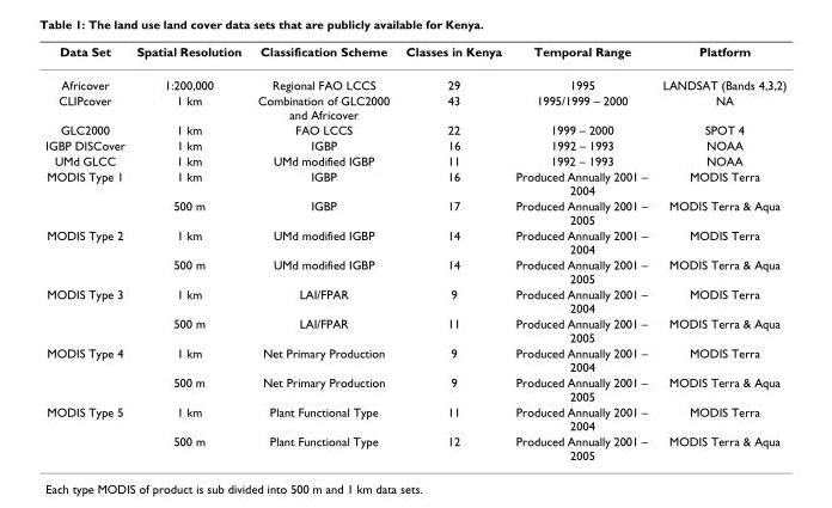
<table><thead><tr><td>Data Set</td><td>Spatial Resolution</td><td>Classification Scheme</td><td>Classes in Kenya</td><td>Temporal Range</td><td>Platform</td></tr></thead><tbody><tr><td>Africover</td><td>1:200,000</td><td>Regional FAO LCCS</td><td>29</td><td>1995</td><td>LANDSAT (Bands 4,3,2)</td></tr><tr><td>CLIPcover</td><td>1 km</td><td>Combination of GLC2000 and Africover</td><td>43</td><td>1995/1999 – 2000</td><td>NA</td></tr><tr><td>GLC2000</td><td>1 km</td><td>FAO LCCS</td><td>22</td><td>1999 – 2000</td><td>SPOT 4</td></tr><tr><td>IGBP DISCover</td><td>1 km</td><td>IGBP</td><td>16</td><td>1992 – 1993</td><td>NOAA</td></tr><tr><td>UMd GLCC</td><td>1 km</td><td>UMd modified IGBP</td><td>11</td><td>1992 – 1993</td><td>NOAA</td></tr><tr><td rowspan="2">MODIS Type 1</td><td>1 km</td><td>IGBP</td><td>16</td><td>Produced Annually 2001 – 2004</td><td>MODIS Terra</td></tr><tr><td>500 m</td><td>IGBP</td><td>17</td><td>Produced Annually 2001 – 2005</td><td>MODIS Terra &amp; Aqua</td></tr><tr><td rowspan="2">MODIS Type 2</td><td>1 km</td><td>UMd modified IGBP</td><td>14</td><td>Produced Annually 2001 – 2004</td><td>MODIS Terra</td></tr><tr><td>500 m</td><td>UMd modified IGBP</td><td>14</td><td>Produced Annually 2001 – 2005</td><td>MODIS Terra &amp; Aqua</td></tr><tr><td rowspan="2">MODIS Type 3</td><td>1 km</td><td>LAI/FPAR</td><td>9</td><td>Produced Annually 2001 – 2004</td><td>MODIS Terra</td></tr><tr><td>500 m</td><td>LAI/FPAR</td><td>11</td><td>Produced Annually 2001 – 2005</td><td>MODIS Terra &amp; Aqua</td></tr><tr><td rowspan="2">MODIS Type 4</td><td>1 km</td><td>Net Primary Production</td><td>9</td><td>Produced Annually 2001 – 2004</td><td>MODIS Terra</td></tr><tr><td>500 m</td><td>Net Primary Production</td><td>9</td><td>Produced Annually 2001 – 2005</td><td>MODIS Terra &amp; Aqua</td></tr><tr><td rowspan="2">MODIS Type 5</td><td>1 km</td><td>Plant Functional Type</td><td>11</td><td>Produced Annually 2001 – 2004</td><td>MODIS Terra</td></tr><tr><td>500 m</td><td>Plant Functional Type</td><td>12</td><td>Produced Annually 2001 – 2005</td><td>MODIS Terra &amp; Aqua</td></tr></tbody></table>